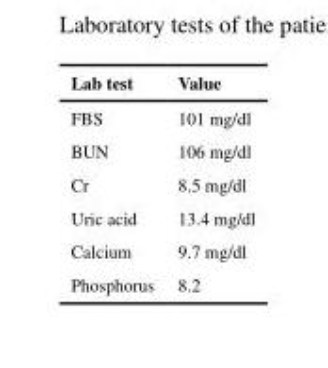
<table><thead><tr><td>Lab test</td><td>Value</td></tr></thead><tbody><tr><td>FBS</td><td>101 mg/dl</td></tr><tr><td>BUN</td><td>106 mg/dl</td></tr><tr><td>Cr</td><td>8.5 mg/dl</td></tr><tr><td>Uric acid</td><td>13.4 mg/dl</td></tr><tr><td>Calcium</td><td>9.7 mg/dl</td></tr><tr><td>Phosphorus</td><td>8.2</td></tr></tbody></table>